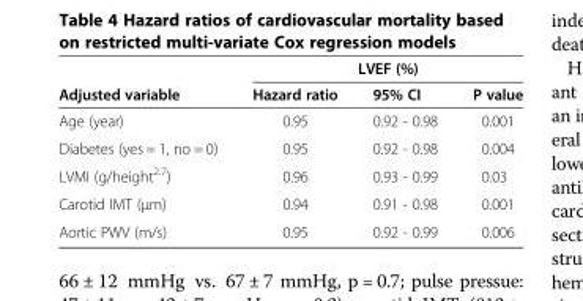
<table><thead><tr><td rowspan="2">Adjusted variable</td><td colspan="3">LVEF (%)</td></tr><tr><td>Hazard ratio</td><td>95% CI</td><td>P value</td></tr></thead><tbody><tr><td>Age (year)</td><td>0.95</td><td>0.92 - 0.98</td><td>0.001</td></tr><tr><td>Diabetes (yes = 1, no = 0)</td><td>0.95</td><td>0.92 - 0.98</td><td>0.004</td></tr><tr><td>LVMI (g/height<sup>2.7</sup>)</td><td>0.96</td><td>0.93 - 0.99</td><td>0.03</td></tr><tr><td>Carotid IMT (μm)</td><td>0.94</td><td>0.91 - 0.98</td><td>0.001</td></tr><tr><td>Aortic PWV (m/s)</td><td>0.95</td><td>0.92 - 0.99</td><td>0.006</td></tr></tbody></table>